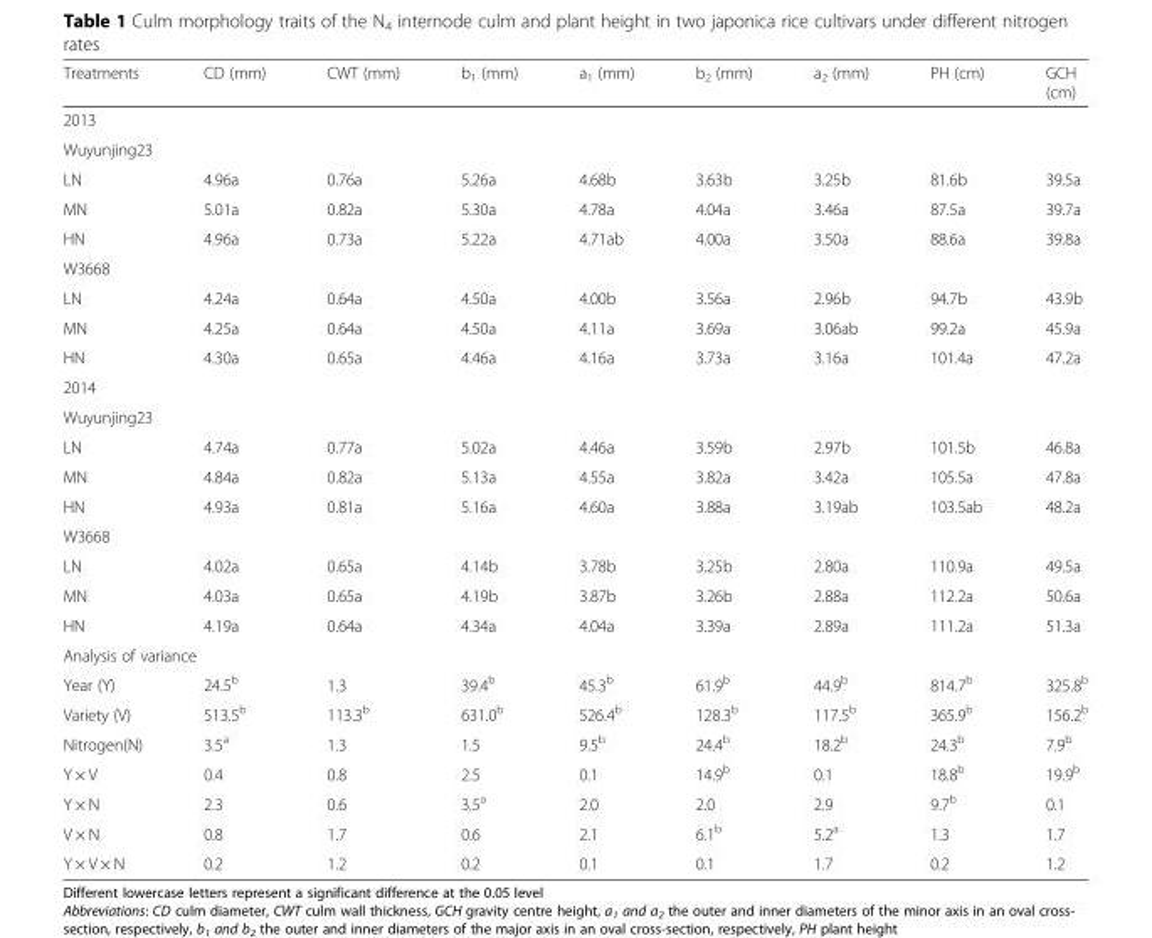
<table><thead><tr><td>Treatments</td><td>CD (mm)</td><td>CWT (mm)</td><td>b<sub>1</sub> (mm)</td><td>a<sub>1</sub> (mm)</td><td>b<sub>2</sub> (mm)</td><td>a<sub>2</sub> (mm)</td><td>PH (cm)</td><td>GCH (cm)</td></tr></thead><tbody><tr><td colspan="9">2013</td></tr><tr><td colspan="9">Wuyunjing23</td></tr><tr><td>LN</td><td>4.96a</td><td>0.76a</td><td>5.26a</td><td>4.68b</td><td>3.63b</td><td>3.25b</td><td>81.6b</td><td>39.5a</td></tr><tr><td>MN</td><td>5.01a</td><td>0.82a</td><td>5.30a</td><td>4.78a</td><td>4.04a</td><td>3.46a</td><td>87.5a</td><td>39.7a</td></tr><tr><td>HN</td><td>4.96a</td><td>0.73a</td><td>5.22a</td><td>4.71ab</td><td>4.00a</td><td>3.50a</td><td>88.6a</td><td>39.8a</td></tr><tr><td colspan="9">W3668</td></tr><tr><td>LN</td><td>4.24a</td><td>0.64a</td><td>4.50a</td><td>4.00b</td><td>3.56a</td><td>2.96b</td><td>94.7b</td><td>43.9b</td></tr><tr><td>MN</td><td>4.25a</td><td>0.64a</td><td>4.50a</td><td>4.11a</td><td>3.69a</td><td>3.06ab</td><td>99.2a</td><td>45.9a</td></tr><tr><td>HN</td><td>4.30a</td><td>0.65a</td><td>4.46a</td><td>4.16a</td><td>3.73a</td><td>3.16a</td><td>101.4a</td><td>47.2a</td></tr><tr><td colspan="9">2014</td></tr><tr><td colspan="9">Wuyunjing23</td></tr><tr><td>LN</td><td>4.74a</td><td>0.77a</td><td>5.02a</td><td>4.46a</td><td>3.59b</td><td>2.97b</td><td>101.5b</td><td>46.8a</td></tr><tr><td>MN</td><td>4.84a</td><td>0.82a</td><td>5.13a</td><td>4.55a</td><td>3.82a</td><td>3.42a</td><td>105.5a</td><td>47.8a</td></tr><tr><td>HN</td><td>4.93a</td><td>0.81a</td><td>5.16a</td><td>4.60a</td><td>3.88a</td><td>3.19ab</td><td>103.5ab</td><td>48.2a</td></tr><tr><td colspan="9">W3668</td></tr><tr><td>LN</td><td>4.02a</td><td>0.65a</td><td>4.14b</td><td>3.78b</td><td>3.25b</td><td>2.80a</td><td>110.9a</td><td>49.5a</td></tr><tr><td>MN</td><td>4.03a</td><td>0.65a</td><td>4.19b</td><td>3.87b</td><td>3.26b</td><td>2.88a</td><td>112.2a</td><td>50.6a</td></tr><tr><td>HN</td><td>4.19a</td><td>0.64a</td><td>4.34a</td><td>4.04a</td><td>3.39a</td><td>2.89a</td><td>111.2a</td><td>51.3a</td></tr><tr><td colspan="9">Analysis of variance</td></tr><tr><td>Year (Y)</td><td>24.5<sup>b</sup></td><td>1.3</td><td>39.4<sup>b</sup></td><td>45.3<sup>b</sup></td><td>61.9<sup>b</sup></td><td>44.9<sup>b</sup></td><td>814.7<sup>b</sup></td><td>325.8<sup>b</sup></td></tr><tr><td>Variety (V)</td><td>513.5<sup>b</sup></td><td>113.3<sup>b</sup></td><td>631.0<sup>b</sup></td><td>526.4<sup>b</sup></td><td>128.3<sup>b</sup></td><td>117.5<sup>b</sup></td><td>365.9<sup>b</sup></td><td>156.2<sup>b</sup></td></tr><tr><td>Nitrogen(N)</td><td>3.5<sup>a</sup></td><td>1.3</td><td>1.5</td><td>9.5<sup>b</sup></td><td>24.4<sup>b</sup></td><td>18.2<sup>b</sup></td><td>24.3<sup>b</sup></td><td>7.9<sup>b</sup></td></tr><tr><td>Y × V</td><td>0.4</td><td>0.8</td><td>2.5</td><td>0.1</td><td>14.9<sup>b</sup></td><td>0.1</td><td>18.8<sup>b</sup></td><td>19.9<sup>b</sup></td></tr><tr><td>Y × N</td><td>2.3</td><td>0.6</td><td>3.5<sup>a</sup></td><td>2.0</td><td>2.0</td><td>2.9</td><td>9.7<sup>b</sup></td><td>0.1</td></tr><tr><td>V × N</td><td>0.8</td><td>1.7</td><td>0.6</td><td>2.1</td><td>6.1<sup>b</sup></td><td>5.2<sup>a</sup></td><td>1.3</td><td>1.7</td></tr><tr><td>Y × V × N</td><td>0.2</td><td>1.2</td><td>0.2</td><td>0.1</td><td>0.1</td><td>1.7</td><td>0.2</td><td>1.2</td></tr></tbody></table>